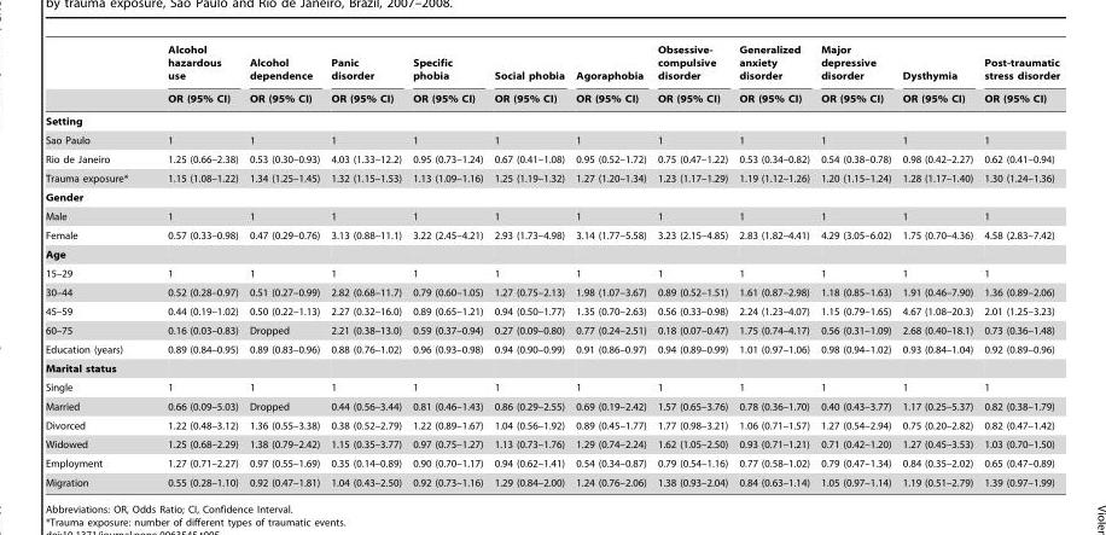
<table><thead><tr><td rowspan="2"></td><td rowspan="2">Alcohol hazardous use OR (95% CI)</td><td rowspan="2">Alcohol dependence OR (95% CI)</td><td rowspan="2">Panic disorder OR (95% CI)</td><td rowspan="2">Specific phobia OR (95% CI)</td><td rowspan="2">Social phobia OR (95% CI)</td><td rowspan="2">Agoraphobia OR (95% CI)</td><td rowspan="2">Obsessive- compulsive disorder OR (95% CI)</td><td rowspan="2">Generalized anxiety disorder OR (95% CI)</td><td rowspan="2">Major depressive disorder OR (95% CI)</td><td rowspan="2">Dysthymia OR (95% CI)</td><td rowspan="2">Post-traumatic stress disorder OR (95% CI)</td></tr><tr></tr></thead><tbody><tr><td colspan="12">Setting</td></tr><tr><td>Sao Paulo</td><td>1</td><td>1</td><td>1</td><td>1</td><td>1</td><td>1</td><td>1</td><td>1</td><td>1</td><td>1</td><td>1</td></tr><tr><td>Rio de Janeiro</td><td>1.25 (0.66–2.38)</td><td>0.53 (0.30–0.93)</td><td>4.03 (1.33–12.2)</td><td>0.95 (0.73–1.24)</td><td>0.67 (0.41–1.08)</td><td>0.95 (0.52–1.72)</td><td>0.75 (0.47–1.22)</td><td>0.53 (0.34–0.82)</td><td>0.54 (0.38–0.78)</td><td>0.98 (0.42–2.27)</td><td>0.62 (0.41–0.94)</td></tr><tr><td>Trauma exposure*</td><td>1.15 (1.08–1.22)</td><td>1.34 (1.25–1.45)</td><td>1.32 (1.15–1.53)</td><td>1.13 (1.09–1.16)</td><td>1.25 (1.19–1.32)</td><td>1.27 (1.20–1.34)</td><td>1.23 (1.17–1.29)</td><td>1.19 (1.12–1.26)</td><td>1.20 (1.15–1.24)</td><td>1.28 (1.17–1.40)</td><td>1.30 (1.24–1.36)</td></tr><tr><td colspan="12">Gender</td></tr><tr><td>Male</td><td>1</td><td>1</td><td>1</td><td>1</td><td>1</td><td>1</td><td>1</td><td>1</td><td>1</td><td>1</td><td>1</td></tr><tr><td>Female</td><td>0.57 (0.33–0.98)</td><td>0.47 (0.29–0.76)</td><td>3.13 (0.88–11.1)</td><td>3.22 (2.45–4.21)</td><td>2.93 (1.73–4.98)</td><td>3.14 (1.77–5.58)</td><td>3.23 (2.15–4.85)</td><td>2.83 (1.82–4.41)</td><td>4.29 (3.05–6.02)</td><td>1.75 (0.70–4.36)</td><td>4.58 (2.83–7.42)</td></tr><tr><td colspan="12">Age</td></tr><tr><td>15–29</td><td>1</td><td>1</td><td>1</td><td>1</td><td>1</td><td>1</td><td>1</td><td>1</td><td>1</td><td>1</td><td>1</td></tr><tr><td>30–44</td><td>0.52 (0.28–0.97)</td><td>0.51 (0.27–0.99)</td><td>2.82 (0.68–11.7)</td><td>0.79 (0.60–1.05)</td><td>1.27 (0.75–2.13)</td><td>1.98 (1.07–3.67)</td><td>0.89 (0.52–1.51)</td><td>1.61 (0.87–2.98)</td><td>1.18 (0.85–1.63)</td><td>1.91 (0.46–7.90)</td><td>1.36 (0.89–2.06)</td></tr><tr><td>45–59</td><td>0.44 (0.19–1.02)</td><td>0.50 (0.22–1.13)</td><td>2.27 (0.32–16.0)</td><td>0.89 (0.65–1.21)</td><td>0.94 (0.50–1.77)</td><td>1.35 (0.70–2.63)</td><td>0.56 (0.33–0.98)</td><td>2.24 (1.23–4.07)</td><td>1.15 (0.79–1.65)</td><td>4.67 (1.08–20.3)</td><td>2.01 (1.25–3.23)</td></tr><tr><td>60–75</td><td>0.16 (0.03–0.83)</td><td>Dropped</td><td>2.21 (0.38–13.0)</td><td>0.59 (0.37–0.94)</td><td>0.27 (0.09–0.80)</td><td>0.77 (0.24–2.51)</td><td>0.18 (0.07–0.47)</td><td>1.75 (0.74–4.17)</td><td>0.56 (0.31–1.09)</td><td>2.68 (0.40–18.1)</td><td>0.73 (0.36–1.48)</td></tr><tr><td>Education (years)</td><td>0.89 (0.84–0.95)</td><td>0.89 (0.83–0.96)</td><td>0.88 (0.76–1.02)</td><td>0.96 (0.93–0.98)</td><td>0.94 (0.90–0.99)</td><td>0.91 (0.86–0.97)</td><td>0.94 (0.89–0.99)</td><td>1.01 (0.97–1.06)</td><td>0.98 (0.94–1.02)</td><td>0.93 (0.84–1.04)</td><td>0.92 (0.89–0.96)</td></tr><tr><td colspan="12">Marital status</td></tr><tr><td>Single</td><td>1</td><td>1</td><td>1</td><td>1</td><td>1</td><td>1</td><td>1</td><td>1</td><td>1</td><td>1</td><td>1</td></tr><tr><td>Married</td><td>0.66 (0.09–5.03)</td><td>Dropped</td><td>0.44 (0.56–3.44)</td><td>0.81 (0.46–1.43)</td><td>0.86 (0.29–2.55)</td><td>0.69 (0.19–2.42)</td><td>1.57 (0.65–3.76)</td><td>0.78 (0.36–1.70)</td><td>0.40 (0.43–3.77)</td><td>1.17 (0.25–5.37)</td><td>0.82 (0.38–1.79)</td></tr><tr><td>Divorced</td><td>1.22 (0.48–3.12)</td><td>1.36 (0.55–3.38)</td><td>0.38 (0.52–2.79)</td><td>1.22 (0.89–1.67)</td><td>1.04 (0.56–1.92)</td><td>0.89 (0.45–1.77)</td><td>1.77 (0.98–3.21)</td><td>1.06 (0.71–1.57)</td><td>1.27 (0.54–2.94)</td><td>0.75 (0.20–2.82)</td><td>0.82 (0.47–1.42)</td></tr><tr><td>Widowed</td><td>1.25 (0.68–2.29)</td><td>1.38 (0.79–2.42)</td><td>1.15 (0.35–3.77)</td><td>0.97 (0.75–1.27)</td><td>1.13 (0.73–1.76)</td><td>1.29 (0.74–2.24)</td><td>1.62 (1.05–2.50)</td><td>0.93 (0.71–1.21)</td><td>0.71 (0.42–1.20)</td><td>1.27 (0.45–3.53)</td><td>1.03 (0.70–1.50)</td></tr><tr><td>Employment</td><td>1.27 (0.71–2.27)</td><td>0.97 (0.55–1.69)</td><td>0.35 (0.14–0.89)</td><td>0.90 (0.70–1.17)</td><td>0.94 (0.62–1.41)</td><td>0.54 (0.34–0.87)</td><td>0.79 (0.54–1.16)</td><td>0.77 (0.58–1.02)</td><td>0.79 (0.47–1.34)</td><td>0.84 (0.35–2.02)</td><td>0.65 (0.47–0.89)</td></tr><tr><td>Migration</td><td>0.55 (0.28–1.10)</td><td>0.92 (0.47–1.81)</td><td>1.04 (0.43–2.50)</td><td>0.92 (0.73–1.16)</td><td>1.29 (0.84–2.00)</td><td>1.24 (0.76–2.06)</td><td>1.38 (0.93–2.04)</td><td>0.84 (0.63–1.14)</td><td>1.05 (0.97–1.14)</td><td>1.19 (0.51–2.79)</td><td>1.39 (0.97–1.99)</td></tr></tbody></table>